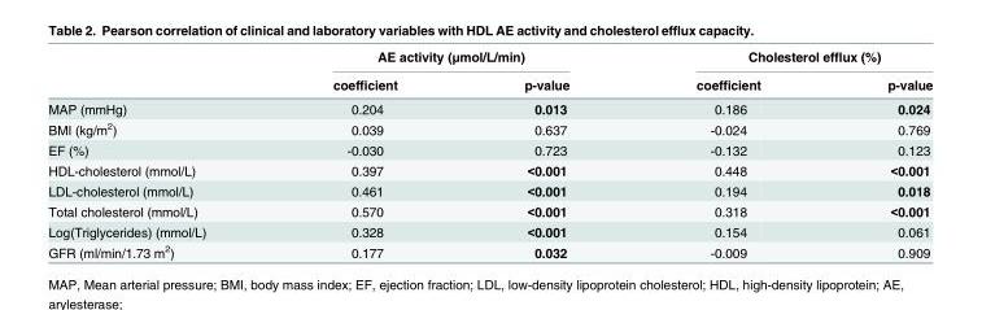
<table><thead><tr><td rowspan="2"></td><td colspan="2">AE activity (μmol/L/min)</td><td colspan="2">Cholesterol efflux (%)</td></tr><tr><td>coefficient</td><td>p-value</td><td>coefficient</td><td>p-value</td></tr></thead><tbody><tr><td>MAP (mmHg)</td><td>0.204</td><td>0.013</td><td>0.186</td><td>0.024</td></tr><tr><td>BMI (kg/m<sup>2</sup>)</td><td>0.039</td><td>0.637</td><td>-0.024</td><td>0.769</td></tr><tr><td>EF (%)</td><td>-0.030</td><td>0.723</td><td>-0.132</td><td>0.123</td></tr><tr><td>HDL-cholesterol (mmol/L)</td><td>0.397</td><td>&lt;0.001</td><td>0.448</td><td>&lt;0.001</td></tr><tr><td>LDL-cholesterol (mmol/L)</td><td>0.461</td><td>&lt;0.001</td><td>0.194</td><td>0.018</td></tr><tr><td>Total cholesterol (mmol/L)</td><td>0.570</td><td>&lt;0.001</td><td>0.318</td><td>&lt;0.001</td></tr><tr><td>Log(Triglycerides) (mmol/L)</td><td>0.328</td><td>&lt;0.001</td><td>0.154</td><td>0.061</td></tr><tr><td>GFR (ml/min/1.73 m<sup>2</sup>)</td><td>0.177</td><td>0.032</td><td>-0.009</td><td>0.909</td></tr></tbody></table>